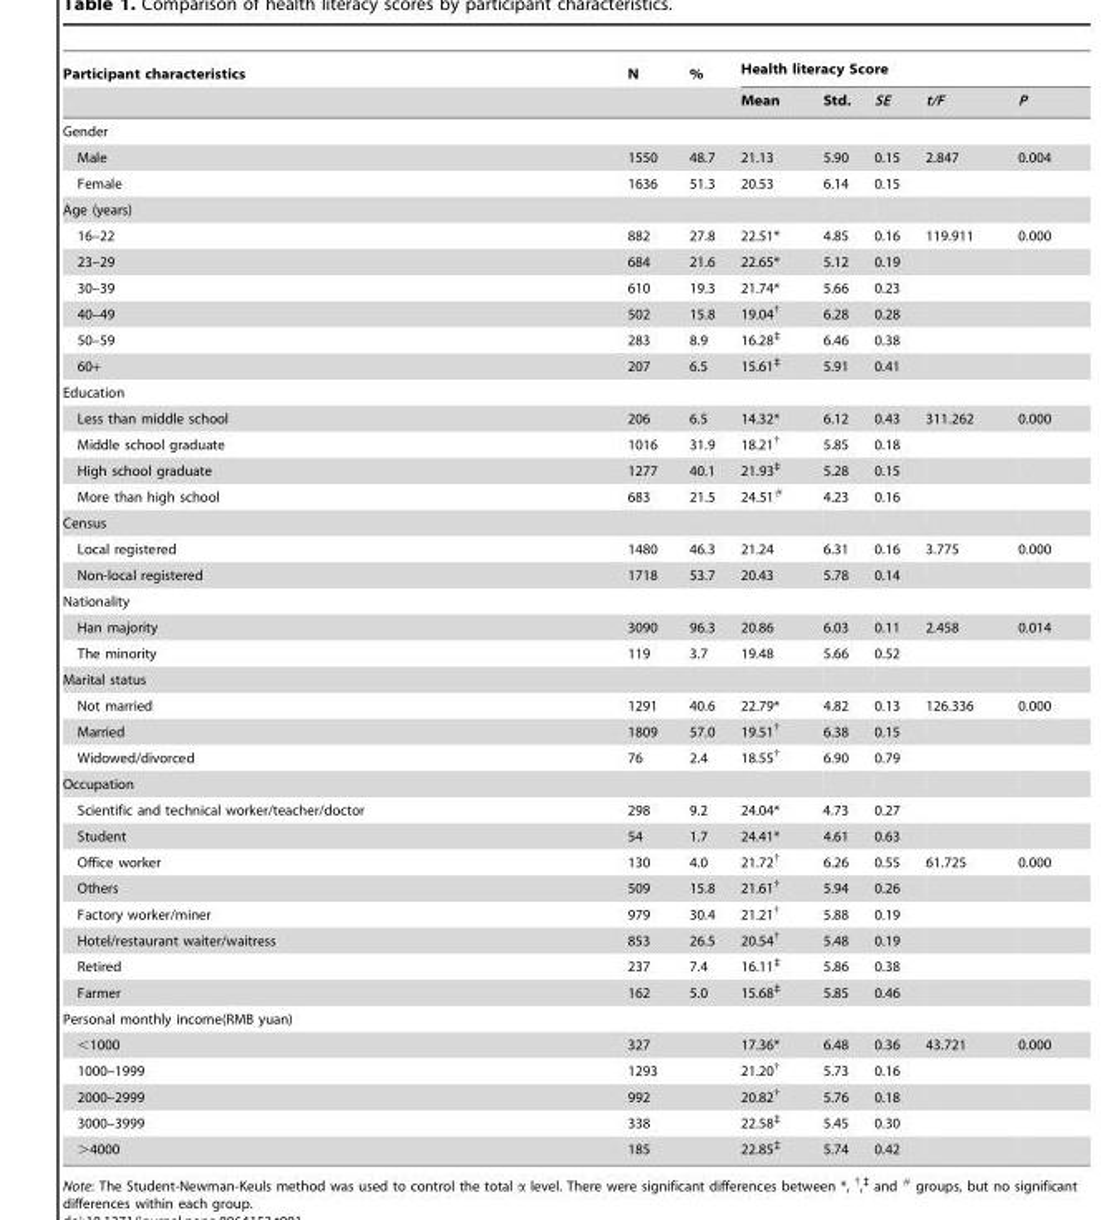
<table><thead><tr><td rowspan="2">Participant characteristics</td><td rowspan="2">N</td><td rowspan="2">%</td><td colspan="5">Health literacy Score</td></tr><tr><td>Mean</td><td>Std.</td><td>SE</td><td>t/F</td><td>P</td></tr></thead><tbody><tr><td colspan="8">Gender</td></tr><tr><td>Male</td><td>1550</td><td>48.7</td><td>21.13</td><td>5.90</td><td>0.15</td><td>2.847</td><td>0.004</td></tr><tr><td>Female</td><td>1636</td><td>51.3</td><td>20.53</td><td>6.14</td><td>0.15</td><td></td><td></td></tr><tr><td colspan="8">Age (years)</td></tr><tr><td>16–22</td><td>882</td><td>27.8</td><td>22.51*</td><td>4.85</td><td>0.16</td><td>119.911</td><td>0.000</td></tr><tr><td>23–29</td><td>684</td><td>21.6</td><td>22.65*</td><td>5.12</td><td>0.19</td><td></td><td></td></tr><tr><td>30–39</td><td>610</td><td>19.3</td><td>21.74*</td><td>5.66</td><td>0.23</td><td></td><td></td></tr><tr><td>40–49</td><td>502</td><td>15.8</td><td>19.04<sup>†</sup></td><td>6.28</td><td>0.28</td><td></td><td></td></tr><tr><td>50–59</td><td>283</td><td>8.9</td><td>16.28<sup>‡</sup></td><td>6.46</td><td>0.38</td><td></td><td></td></tr><tr><td>60+</td><td>207</td><td>6.5</td><td>15.61<sup>‡</sup></td><td>5.91</td><td>0.41</td><td></td><td></td></tr><tr><td colspan="8">Education</td></tr><tr><td>Less than middle school</td><td>206</td><td>6.5</td><td>14.32*</td><td>6.12</td><td>0.43</td><td>311.262</td><td>0.000</td></tr><tr><td>Middle school graduate</td><td>1016</td><td>31.9</td><td>18.21<sup>†</sup></td><td>5.85</td><td>0.18</td><td></td><td></td></tr><tr><td>High school graduate</td><td>1277</td><td>40.1</td><td>21.93<sup>‡</sup></td><td>5.28</td><td>0.15</td><td></td><td></td></tr><tr><td>More than high school</td><td>683</td><td>21.5</td><td>24.51<sup>#</sup></td><td>4.23</td><td>0.16</td><td></td><td></td></tr><tr><td colspan="8">Census</td></tr><tr><td>Local registered</td><td>1480</td><td>46.3</td><td>21.24</td><td>6.31</td><td>0.16</td><td>3.775</td><td>0.000</td></tr><tr><td>Non-local registered</td><td>1718</td><td>53.7</td><td>20.43</td><td>5.78</td><td>0.14</td><td></td><td></td></tr><tr><td colspan="8">Nationality</td></tr><tr><td>Han majority</td><td>3090</td><td>96.3</td><td>20.86</td><td>6.03</td><td>0.11</td><td>2.458</td><td>0.014</td></tr><tr><td>The minority</td><td>119</td><td>3.7</td><td>19.48</td><td>5.66</td><td>0.52</td><td></td><td></td></tr><tr><td colspan="8">Marital status</td></tr><tr><td>Not married</td><td>1291</td><td>40.6</td><td>22.79*</td><td>4.82</td><td>0.13</td><td>126.336</td><td>0.000</td></tr><tr><td>Married</td><td>1809</td><td>57.0</td><td>19.51<sup>†</sup></td><td>6.38</td><td>0.15</td><td></td><td></td></tr><tr><td>Widowed/divorced</td><td>76</td><td>2.4</td><td>18.55<sup>†</sup></td><td>6.90</td><td>0.79</td><td></td><td></td></tr><tr><td colspan="8">Occupation</td></tr><tr><td>Scientific and technical worker/teacher/doctor</td><td>298</td><td>9.2</td><td>24.04*</td><td>4.73</td><td>0.27</td><td></td><td></td></tr><tr><td>Student</td><td>54</td><td>1.7</td><td>24.41*</td><td>4.61</td><td>0.63</td><td></td><td></td></tr><tr><td>Office worker</td><td>130</td><td>4.0</td><td>21.72<sup>†</sup></td><td>6.26</td><td>0.55</td><td>61.725</td><td>0.000</td></tr><tr><td>Others</td><td>509</td><td>15.8</td><td>21.61<sup>†</sup></td><td>5.94</td><td>0.26</td><td></td><td></td></tr><tr><td>Factory worker/miner</td><td>979</td><td>30.4</td><td>21.21<sup>†</sup></td><td>5.88</td><td>0.19</td><td></td><td></td></tr><tr><td>Hotel/restaurant waiter/waitress</td><td>853</td><td>26.5</td><td>20.54<sup>†</sup></td><td>5.48</td><td>0.19</td><td></td><td></td></tr><tr><td>Retired</td><td>237</td><td>7.4</td><td>16.11<sup>‡</sup></td><td>5.86</td><td>0.38</td><td></td><td></td></tr><tr><td>Farmer</td><td>162</td><td>5.0</td><td>15.68<sup>‡</sup></td><td>5.85</td><td>0.46</td><td></td><td></td></tr><tr><td colspan="8">Personal monthly income(RMB yuan)</td></tr><tr><td>&lt;1000</td><td>327</td><td></td><td>17.36*</td><td>6.48</td><td>0.36</td><td>43.721</td><td>0.000</td></tr><tr><td>1000–1999</td><td>1293</td><td></td><td>21.20<sup>†</sup></td><td>5.73</td><td>0.16</td><td></td><td></td></tr><tr><td>2000–2999</td><td>992</td><td></td><td>20.82<sup>†</sup></td><td>5.76</td><td>0.18</td><td></td><td></td></tr><tr><td>3000–3999</td><td>338</td><td></td><td>22.58<sup>‡</sup></td><td>5.45</td><td>0.30</td><td></td><td></td></tr><tr><td>&gt;4000</td><td>185</td><td></td><td>22.85<sup>‡</sup></td><td>5.74</td><td>0.42</td><td></td><td></td></tr></tbody></table>